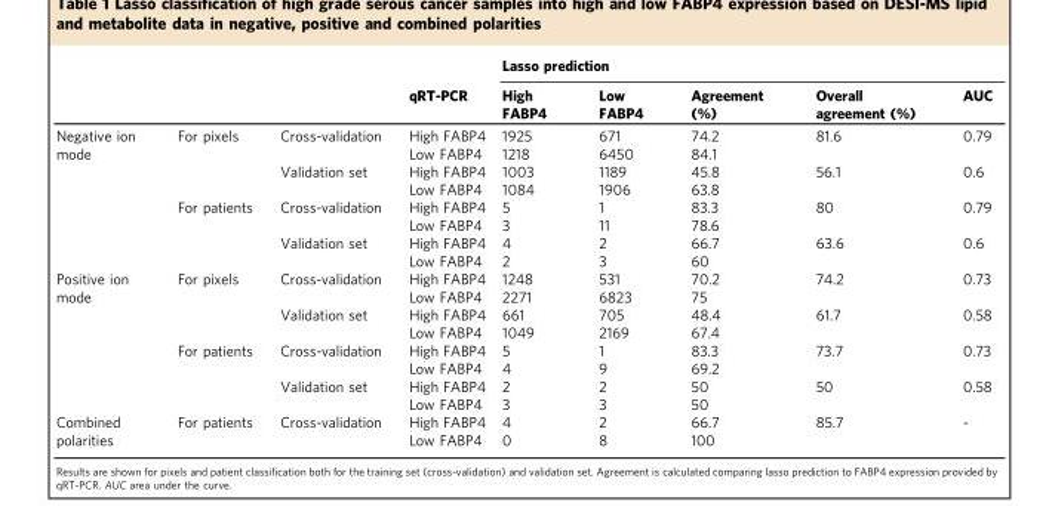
<table><thead><tr><td rowspan="2"></td><td rowspan="2"></td><td rowspan="2"></td><td rowspan="2">qRT-PCR</td><td colspan="5">Lasso prediction</td></tr><tr><td>High FABP4</td><td>Low FABP4</td><td>Agreement (%)</td><td>Overall agreement (%)</td><td>AUC</td></tr></thead><tbody><tr><td rowspan="8">Negative ion mode</td><td rowspan="4">For pixels</td><td rowspan="2">Cross-validation</td><td>High FABP4</td><td>1925</td><td>671</td><td>74.2</td><td rowspan="2">81.6</td><td rowspan="2">0.79</td></tr><tr><td>Low FABP4</td><td>1218</td><td>6450</td><td>84.1</td></tr><tr><td rowspan="2">Validation set</td><td>High FABP4</td><td>1003</td><td>1189</td><td>45.8</td><td rowspan="2">56.1</td><td rowspan="2">0.6</td></tr><tr><td>Low FABP4</td><td>1084</td><td>1906</td><td>63.8</td></tr><tr><td rowspan="4">For patients</td><td rowspan="2">Cross-validation</td><td>High FABP4</td><td>5</td><td>1</td><td>83.3</td><td rowspan="2">80</td><td rowspan="2">0.79</td></tr><tr><td>Low FABP4</td><td>3</td><td>11</td><td>78.6</td></tr><tr><td rowspan="2">Validation set</td><td>High FABP4</td><td>4</td><td>2</td><td>66.7</td><td rowspan="2">63.6</td><td rowspan="2">0.6</td></tr><tr><td>Low FABP4</td><td>2</td><td>3</td><td>60</td></tr><tr><td rowspan="8">Positive ion mode</td><td rowspan="4">For pixels</td><td rowspan="2">Cross-validation</td><td>High FABP4</td><td>1248</td><td>531</td><td>70.2</td><td rowspan="2">74.2</td><td rowspan="2">0.73</td></tr><tr><td>Low FABP4</td><td>2271</td><td>6823</td><td>75</td></tr><tr><td rowspan="2">Validation set</td><td>High FABP4</td><td>661</td><td>705</td><td>48.4</td><td rowspan="2">61.7</td><td rowspan="2">0.58</td></tr><tr><td>Low FABP4</td><td>1049</td><td>2169</td><td>67.4</td></tr><tr><td rowspan="4">For patients</td><td rowspan="2">Cross-validation</td><td>High FABP4</td><td>5</td><td>1</td><td>83.3</td><td rowspan="2">73.7</td><td rowspan="2">0.73</td></tr><tr><td>Low FABP4</td><td>4</td><td>9</td><td>69.2</td></tr><tr><td rowspan="2">Validation set</td><td>High FABP4</td><td>2</td><td>2</td><td>50</td><td rowspan="2">50</td><td rowspan="2">0.58</td></tr><tr><td>Low FABP4</td><td>3</td><td>3</td><td>50</td></tr><tr><td rowspan="2">Combined polarities</td><td rowspan="2">For patients</td><td rowspan="2">Cross-validation</td><td>High FABP4</td><td>4</td><td>2</td><td>66.7</td><td rowspan="2">85.7</td><td rowspan="2">-</td></tr><tr><td>Low FABP4</td><td>0</td><td>8</td><td>100</td></tr></tbody></table>